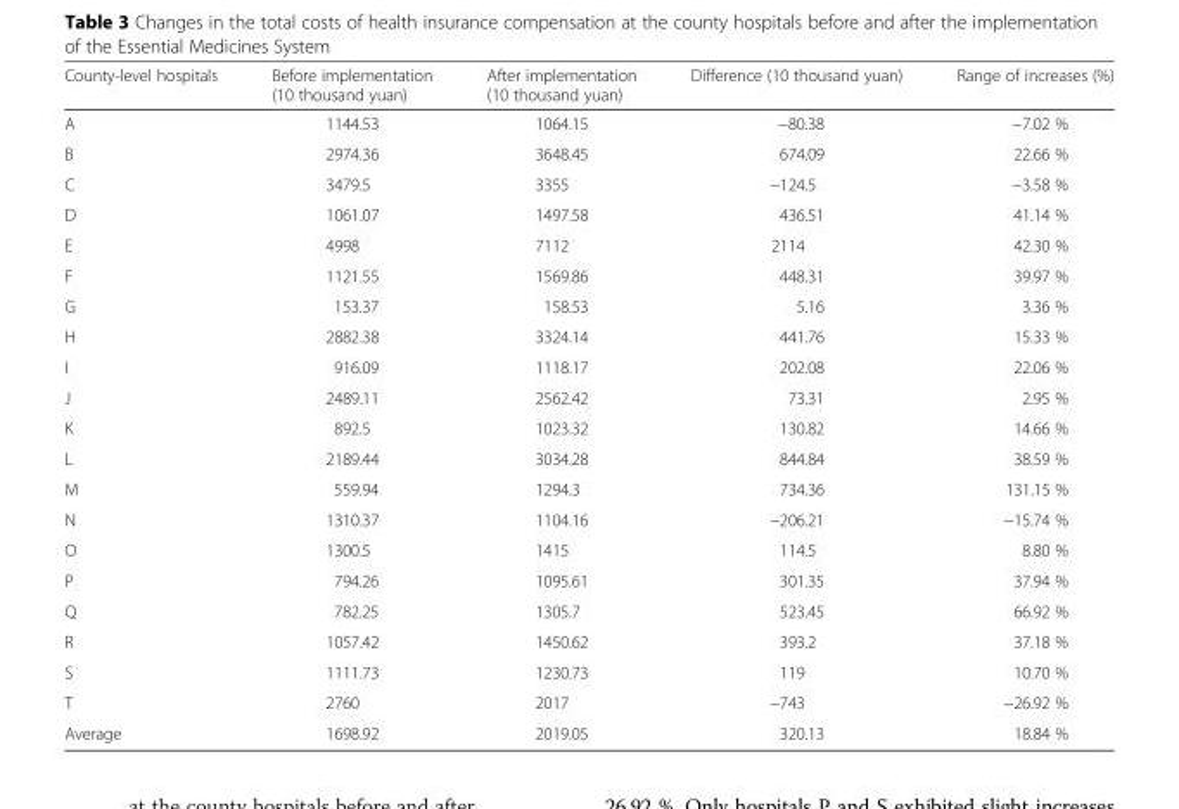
<table><thead><tr><td>County-level hospitals</td><td>Before implementation (10 thousand yuan)</td><td>After implementation (10 thousand yuan)</td><td>Difference (10 thousand yuan)</td><td>Range of increases (%)</td></tr></thead><tbody><tr><td>A</td><td>1144.53</td><td>1064.15</td><td>−80.38</td><td>−7.02 %</td></tr><tr><td>B</td><td>2974.36</td><td>3648.45</td><td>674.09</td><td>22.66 %</td></tr><tr><td>C</td><td>3479.5</td><td>3355</td><td>−124.5</td><td>−3.58 %</td></tr><tr><td>D</td><td>1061.07</td><td>1497.58</td><td>436.51</td><td>41.14 %</td></tr><tr><td>E</td><td>4998</td><td>7112</td><td>2114</td><td>42.30 %</td></tr><tr><td>F</td><td>1121.55</td><td>1569.86</td><td>448.31</td><td>39.97 %</td></tr><tr><td>G</td><td>153.37</td><td>158.53</td><td>5.16</td><td>3.36 %</td></tr><tr><td>H</td><td>2882.38</td><td>3324.14</td><td>441.76</td><td>15.33 %</td></tr><tr><td>I</td><td>916.09</td><td>1118.17</td><td>202.08</td><td>22.06 %</td></tr><tr><td>J</td><td>2489.11</td><td>2562.42</td><td>73.31</td><td>2.95 %</td></tr><tr><td>K</td><td>892.5</td><td>1023.32</td><td>130.82</td><td>14.66 %</td></tr><tr><td>L</td><td>2189.44</td><td>3034.28</td><td>844.84</td><td>38.59 %</td></tr><tr><td>M</td><td>559.94</td><td>1294.3</td><td>734.36</td><td>131.15 %</td></tr><tr><td>N</td><td>1310.37</td><td>1104.16</td><td>−206.21</td><td>−15.74 %</td></tr><tr><td>O</td><td>1300.5</td><td>1415</td><td>114.5</td><td>8.80 %</td></tr><tr><td>P</td><td>794.26</td><td>1095.61</td><td>301.35</td><td>37.94 %</td></tr><tr><td>Q</td><td>782.25</td><td>1305.7</td><td>523.45</td><td>66.92 %</td></tr><tr><td>R</td><td>1057.42</td><td>1450.62</td><td>393.2</td><td>37.18 %</td></tr><tr><td>S</td><td>1111.73</td><td>1230.73</td><td>119</td><td>10.70 %</td></tr><tr><td>T</td><td>2760</td><td>2017</td><td>−743</td><td>−26.92 %</td></tr><tr><td>Average</td><td>1698.92</td><td>2019.05</td><td>320.13</td><td>18.84 %</td></tr></tbody></table>